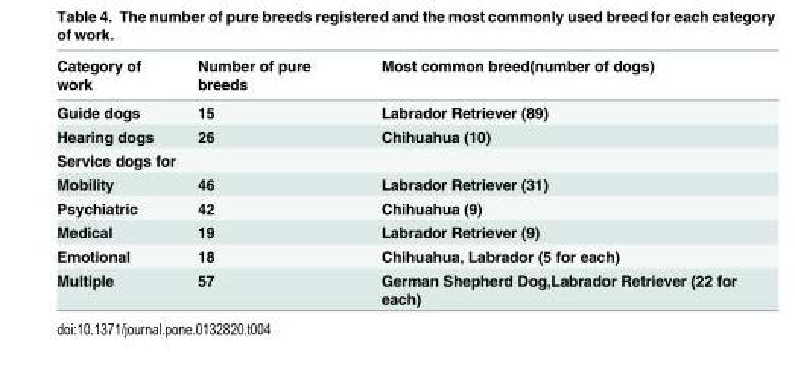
<table><thead><tr><td>Category of work</td><td>Number of pure breeds</td><td>Most common breed(number of dogs)</td></tr></thead><tbody><tr><td>Guide dogs</td><td>15</td><td>Labrador Retriever (89)</td></tr><tr><td>Hearing dogs</td><td>26</td><td>Chihuahua (10)</td></tr><tr><td colspan="3">Service dogs for</td></tr><tr><td>Mobility</td><td>46</td><td>Labrador Retriever (31)</td></tr><tr><td>Psychiatric</td><td>42</td><td>Chihuahua (9)</td></tr><tr><td>Medical</td><td>19</td><td>Labrador Retriever (9)</td></tr><tr><td>Emotional</td><td>18</td><td>Chihuahua, Labrador (5 for each)</td></tr><tr><td>Multiple</td><td>57</td><td>German Shepherd Dog,Labrador Retriever (22 for each)</td></tr></tbody></table>